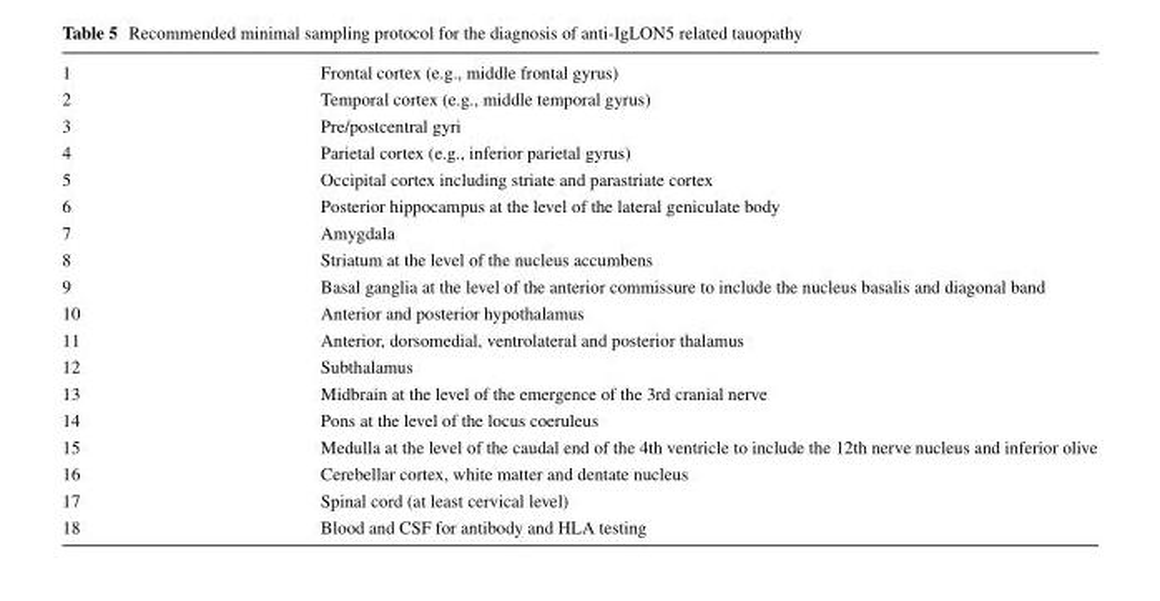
<table><tbody><tr><td>1</td><td>Frontal cortex (e.g., middle frontal gyrus)</td></tr><tr><td>2</td><td>Temporal cortex (e.g., middle temporal gyrus)</td></tr><tr><td>3</td><td>Pre/postcentral gyri</td></tr><tr><td>4</td><td>Parietal cortex (e.g., inferior parietal gyrus)</td></tr><tr><td>5</td><td>Occipital cortex including striate and parastriate cortex</td></tr><tr><td>6</td><td>Posterior hippocampus at the level of the lateral geniculate body</td></tr><tr><td>7</td><td>Amygdala</td></tr><tr><td>8</td><td>Striatum at the level of the nucleus accumbens</td></tr><tr><td>9</td><td>Basal ganglia at the level of the anterior commissure to include the nucleus basalis and diagonal band</td></tr><tr><td>10</td><td>Anterior and posterior hypothalamus</td></tr><tr><td>11</td><td>Anterior, dorsomedial, ventrolateral and posterior thalamus</td></tr><tr><td>12</td><td>Subthalamus</td></tr><tr><td>13</td><td>Midbrain at the level of the emergence of the 3rd cranial nerve</td></tr><tr><td>14</td><td>Pons at the level of the locus coeruleus</td></tr><tr><td>15</td><td>Medulla at the level of the caudal end of the 4th ventricle to include the 12th nerve nucleus and inferior olive</td></tr><tr><td>16</td><td>Cerebellar cortex, white matter and dentate nucleus</td></tr><tr><td>17</td><td>Spinal cord (at least cervical level)</td></tr><tr><td>18</td><td>Blood and CSF for antibody and HLA testing</td></tr></tbody></table>